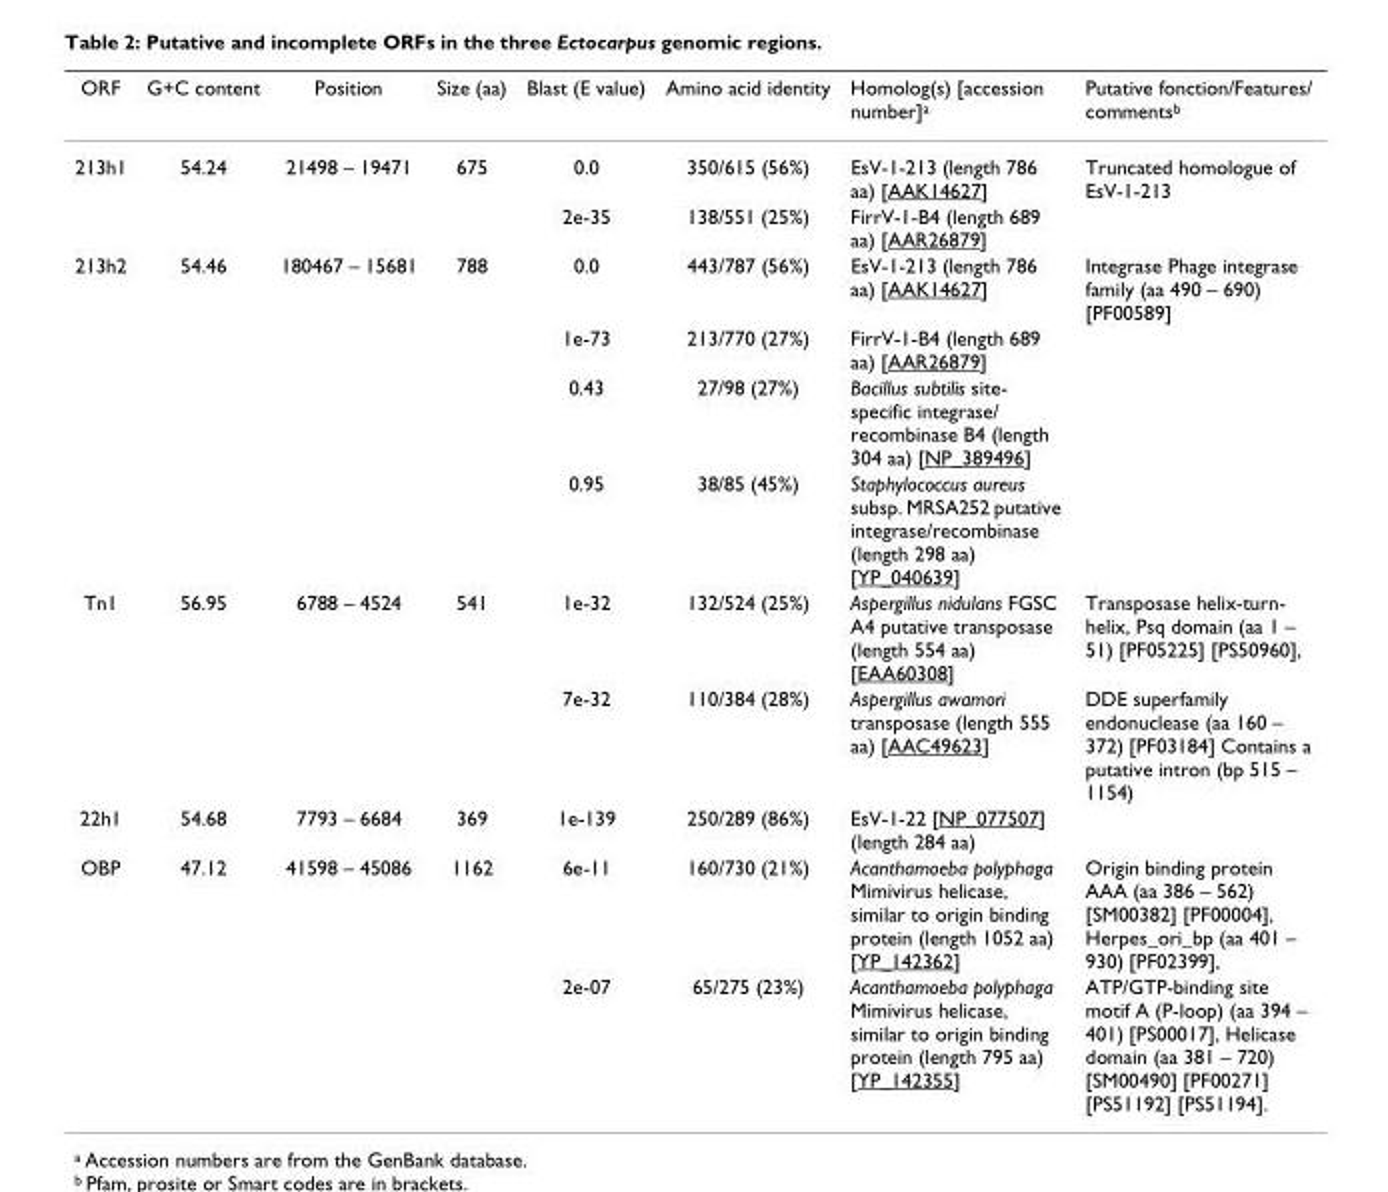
<table><thead><tr><td>ORF</td><td>G+C content</td><td>Position</td><td>Size (aa)</td><td>Blast (E value)</td><td>Amino acid identity</td><td>Homolog(s) [accession number]<sup>a</sup></td><td>Putative fonction/Features/ comments<sup>b</sup></td></tr></thead><tbody><tr><td rowspan="2">213h1</td><td>54.24</td><td>21498 – 19471</td><td>675</td><td>0.0</td><td>350/615 (56%)</td><td>EsV-1-213 (length 786 aa) [AAK14627]</td><td>Truncated homologue of EsV-1-213</td></tr><tr><td></td><td></td><td></td><td>2e-35</td><td>138/551 (25%)</td><td>FirrV-1-B4 (length 689 aa) [AAR26879]</td><td></td></tr><tr><td rowspan="4">213h2</td><td>54.46</td><td>180467 – 15681</td><td>788</td><td>0.0</td><td>443/787 (56%)</td><td>EsV-1-213 (length 786 aa) [AAK14627]</td><td>Integrase Phage integrase family (aa 490 – 690) [PF00589]</td></tr><tr><td></td><td></td><td></td><td>1e-73</td><td>213/770 (27%)</td><td>FirrV-1-B4 (length 689 aa) [AAR26879]</td><td></td></tr><tr><td></td><td></td><td></td><td>0.43</td><td>27/98 (27%)</td><td>Bacillus subtilis site- specific integrase/ recombinase B4 (length 304 aa) [NP_389496]</td><td></td></tr><tr><td></td><td></td><td></td><td>0.95</td><td>38/85 (45%)</td><td>Staphylococcus aureus subsp. MRSA252 putative integrase/recombinase (length 298 aa) [YP_040639]</td><td></td></tr><tr><td rowspan="2">Tn1</td><td>56.95</td><td>6788 – 4524</td><td>541</td><td>1e-32</td><td>132/524 (25%)</td><td>Aspergillus nidulans FGSC A4 putative transposase (length 554 aa) [EAA60308]</td><td>Transposase helix-turn- helix, Psq domain (aa 1 – 51) [PF05225] [PS50960],</td></tr><tr><td></td><td></td><td></td><td>7e-32</td><td>110/384 (28%)</td><td>Aspergillus awamori transposase (length 555 aa) [AAC49623]</td><td>DDE superfamily endonuclease (aa 160 – 372) [PF03184] Contains a putative intron (bp 515 – 1154)</td></tr><tr><td>22h1</td><td>54.68</td><td>7793 – 6684</td><td>369</td><td>1e-139</td><td>250/289 (86%)</td><td>EsV-1-22 [NP_077507] (length 284 aa)</td><td></td></tr><tr><td rowspan="2">OBP</td><td>47.12</td><td>41598 – 45086</td><td>1162</td><td>6e-11</td><td>160/730 (21%)</td><td>Acanthamoeba polyphaga Mimivirus helicase, similar to origin binding protein (length 1052 aa) [YP_142362]</td><td>Origin binding protein AAA (aa 386 – 562) [SM00382] [PF00004], Herpes_ori_bp (aa 401 – 930) [PF02399],</td></tr><tr><td></td><td></td><td></td><td>2e-07</td><td>65/275 (23%)</td><td>Acanthamoeba polyphaga Mimivirus helicase, similar to origin binding protein (length 795 aa) [YP_142355]</td><td>ATP/GTP-binding site motif A (P-loop) (aa 394 – 401) [PS00017], Helicase domain (aa 381 – 720) [SM00490] [PF00271] [PS51192] [PS51194].</td></tr></tbody></table>